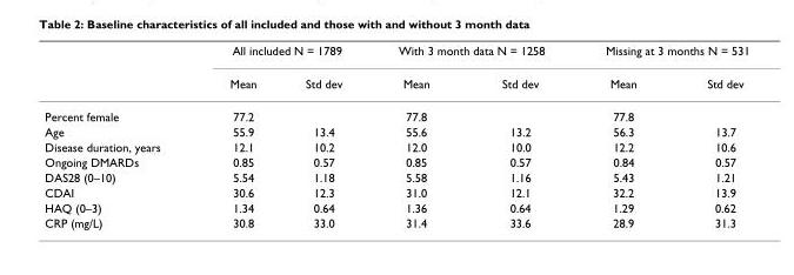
<table><thead><tr><td rowspan="2"></td><td colspan="2">All included N = 1789</td><td colspan="2">With 3 month data N = 1258</td><td colspan="2">Missing at 3 months N = 531</td></tr><tr><td>Mean</td><td>Std dev</td><td>Mean</td><td>Std dev</td><td>Mean</td><td>Std dev</td></tr></thead><tbody><tr><td>Percent female</td><td>77.2</td><td></td><td>77.8</td><td></td><td>77.8</td><td></td></tr><tr><td>Age</td><td>55.9</td><td>13.4</td><td>55.6</td><td>13.2</td><td>56.3</td><td>13.7</td></tr><tr><td>Disease duration, years</td><td>12.1</td><td>10.2</td><td>12.0</td><td>10.0</td><td>12.2</td><td>10.6</td></tr><tr><td>Ongoing DMARDs</td><td>0.85</td><td>0.57</td><td>0.85</td><td>0.57</td><td>0.84</td><td>0.57</td></tr><tr><td>DAS28 (0–10)</td><td>5.54</td><td>1.18</td><td>5.58</td><td>1.16</td><td>5.43</td><td>1.21</td></tr><tr><td>CDAI</td><td>30.6</td><td>12.3</td><td>31.0</td><td>12.1</td><td>32.2</td><td>13.9</td></tr><tr><td>HAQ (0–3)</td><td>1.34</td><td>0.64</td><td>1.36</td><td>0.64</td><td>1.29</td><td>0.62</td></tr><tr><td>CRP (mg/L)</td><td>30.8</td><td>33.0</td><td>31.4</td><td>33.6</td><td>28.9</td><td>31.3</td></tr></tbody></table>